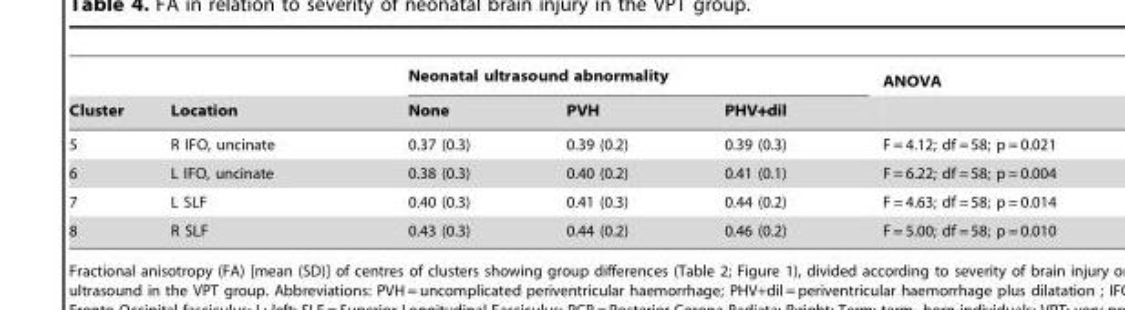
<table><thead><tr><td rowspan="2">Cluster</td><td rowspan="2">Location</td><td colspan="3">Neonatal ultrasound abnormality</td><td rowspan="2">ANOVA</td></tr><tr><td>None</td><td>PVH</td><td>PHV+dil</td></tr></thead><tbody><tr><td>5</td><td>R IFO, uncinate</td><td>0.37 (0.3)</td><td>0.39 (0.2)</td><td>0.39 (0.3)</td><td>F = 4.12; df = 58; p = 0.021</td></tr><tr><td>6</td><td>L IFO, uncinate</td><td>0.38 (0.3)</td><td>0.40 (0.2)</td><td>0.41 (0.1)</td><td>F = 6.22; df = 58; p = 0.004</td></tr><tr><td>7</td><td>L SLF</td><td>0.40 (0.3)</td><td>0.41 (0.3)</td><td>0.44 (0.2)</td><td>F = 4.63; df = 58; p = 0.014</td></tr><tr><td>8</td><td>R SLF</td><td>0.43 (0.3)</td><td>0.44 (0.2)</td><td>0.46 (0.2)</td><td>F = 5.00; df = 58; p = 0.010</td></tr></tbody></table>